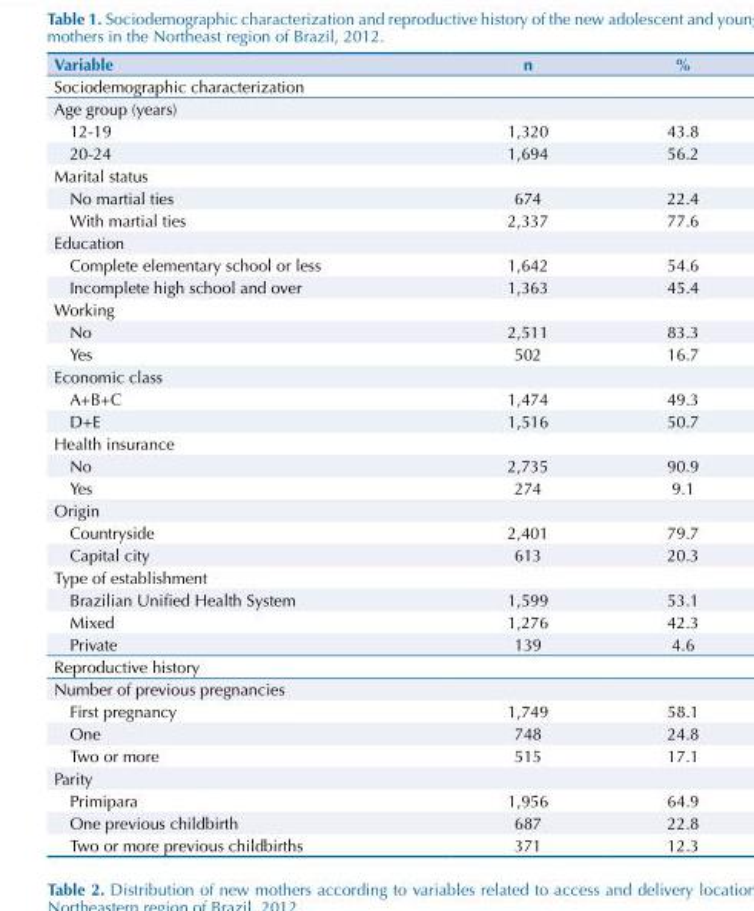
<table><thead><tr><td>Variable</td><td>n</td><td>%</td></tr></thead><tbody><tr><td colspan="3">Sociodemographic characterization</td></tr><tr><td colspan="3">Age group (years)</td></tr><tr><td>12-19</td><td>1,320</td><td>43.8</td></tr><tr><td>20-24</td><td>1,694</td><td>56.2</td></tr><tr><td colspan="3">Marital status</td></tr><tr><td>No martial ties</td><td>674</td><td>22.4</td></tr><tr><td>With martial ties</td><td>2,337</td><td>77.6</td></tr><tr><td colspan="3">Education</td></tr><tr><td>Complete elementary school or less</td><td>1,642</td><td>54.6</td></tr><tr><td>Incomplete high school and over</td><td>1,363</td><td>45.4</td></tr><tr><td colspan="3">Working</td></tr><tr><td>No</td><td>2,511</td><td>83.3</td></tr><tr><td>Yes</td><td>502</td><td>16.7</td></tr><tr><td colspan="3">Economic class</td></tr><tr><td>A+B+C</td><td>1,474</td><td>49.3</td></tr><tr><td>D+E</td><td>1,516</td><td>50.7</td></tr><tr><td colspan="3">Health insurance</td></tr><tr><td>No</td><td>2,735</td><td>90.9</td></tr><tr><td>Yes</td><td>274</td><td>9.1</td></tr><tr><td colspan="3">Origin</td></tr><tr><td>Countryside</td><td>2,401</td><td>79.7</td></tr><tr><td>Capital city</td><td>613</td><td>20.3</td></tr><tr><td colspan="3">Type of establishment</td></tr><tr><td>Brazilian Unified Health System</td><td>1,599</td><td>53.1</td></tr><tr><td>Mixed</td><td>1,276</td><td>42.3</td></tr><tr><td>Private</td><td>139</td><td>4.6</td></tr><tr><td colspan="3">Reproductive history</td></tr><tr><td colspan="3">Number of previous pregnancies</td></tr><tr><td>First pregnancy</td><td>1,749</td><td>58.1</td></tr><tr><td>One</td><td>748</td><td>24.8</td></tr><tr><td>Two or more</td><td>515</td><td>17.1</td></tr><tr><td colspan="3">Parity</td></tr><tr><td>Primipara</td><td>1,956</td><td>64.9</td></tr><tr><td>One previous childbirth</td><td>687</td><td>22.8</td></tr><tr><td>Two or more previous childbirths</td><td>371</td><td>12.3</td></tr></tbody></table>